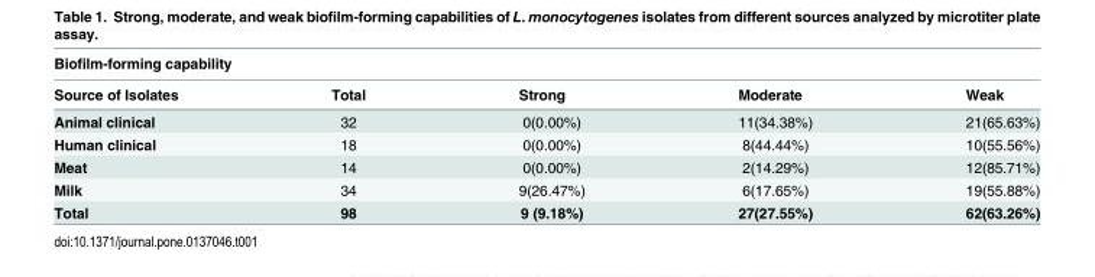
<table><thead><tr><td colspan="5">Biofilm-forming capability</td></tr><tr><td>Source of Isolates</td><td>Total</td><td>Strong</td><td>Moderate</td><td>Weak</td></tr></thead><tbody><tr><td>Animal clinical</td><td>32</td><td>0(0.00%)</td><td>11(34.38%)</td><td>21(65.63%)</td></tr><tr><td>Human clinical</td><td>18</td><td>0(0.00%)</td><td>8(44.44%)</td><td>10(55.56%)</td></tr><tr><td>Meat</td><td>14</td><td>0(0.00%)</td><td>2(14.29%)</td><td>12(85.71%)</td></tr><tr><td>Milk</td><td>34</td><td>9(26.47%)</td><td>6(17.65%)</td><td>19(55.88%)</td></tr><tr><td>Total</td><td>98</td><td>9 (9.18%)</td><td>27(27.55%)</td><td>62(63.26%)</td></tr></tbody></table>